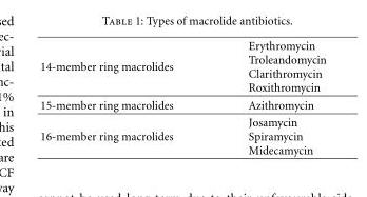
<table><tbody><tr><td>14-member ring macrolides</td><td>Erythromycin Troleandomycin Clarithromycin Roxithromycin</td></tr><tr><td>15-member ring macrolides</td><td>Azithromycin</td></tr><tr><td>16-member ring macrolides</td><td>Josamycin Spiramycin Midecamycin</td></tr></tbody></table>